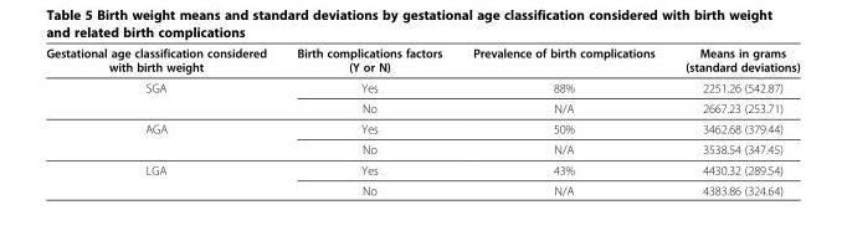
<table><thead><tr><td>Gestational age classification considered with birth weight</td><td>Birth complications factors (Y or N)</td><td>Prevalence of birth complications</td><td>Means in grams (standard deviations)</td></tr></thead><tbody><tr><td rowspan="2">SGA</td><td>Yes</td><td>88%</td><td>2251.26 (542.87)</td></tr><tr><td>No</td><td>N/A</td><td>2667.23 (253.71)</td></tr><tr><td rowspan="2">AGA</td><td>Yes</td><td>50%</td><td>3462.68 (379.44)</td></tr><tr><td>No</td><td>N/A</td><td>3538.54 (347.45)</td></tr><tr><td rowspan="2">LGA</td><td>Yes</td><td>43%</td><td>4430.32 (289.54)</td></tr><tr><td>No</td><td>N/A</td><td>4383.86 (324.64)</td></tr></tbody></table>